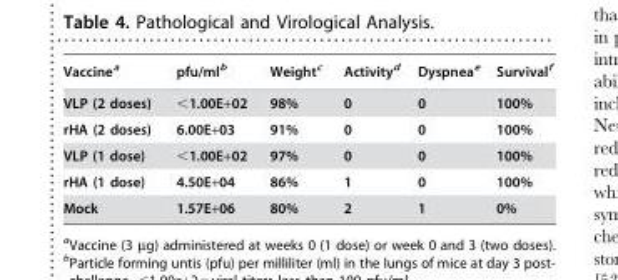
<table><thead><tr><td>Vaccine<sup>a</sup></td><td>pfu/ml<sup>b</sup></td><td>Weight<sup>c</sup></td><td>Activity<sup>d</sup></td><td>Dyspnea<sup>e</sup></td><td>Survival<sup>f</sup></td></tr></thead><tbody><tr><td>VLP (2 doses)</td><td>&lt;1.00E+02</td><td>98%</td><td>0</td><td>0</td><td>100%</td></tr><tr><td>rHA (2 doses)</td><td>6.00E+03</td><td>91%</td><td>0</td><td>0</td><td>100%</td></tr><tr><td>VLP (1 dose)</td><td>&lt;1.00E+02</td><td>97%</td><td>0</td><td>0</td><td>100%</td></tr><tr><td>rHA (1 dose)</td><td>4.50E+04</td><td>86%</td><td>1</td><td>0</td><td>100%</td></tr><tr><td>Mock</td><td>1.57E+06</td><td>80%</td><td>2</td><td>1</td><td>0%</td></tr></tbody></table>